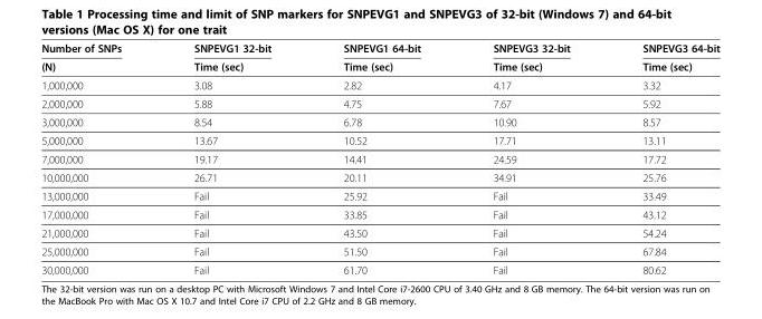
<table><thead><tr><td rowspan="2">Number of SNPs (N)</td><td rowspan="2">SNPEVG1 32-bit Time (sec)</td><td rowspan="2">SNPEVG1 64-bit Time (sec)</td><td rowspan="2">SNPEVG3 32-bit Time (sec)</td><td rowspan="2">SNPEVG3 64-bit Time (sec)</td></tr><tr></tr></thead><tbody><tr><td>1,000,000</td><td>3.08</td><td>2.82</td><td>4.17</td><td>3.32</td></tr><tr><td>2,000,000</td><td>5.88</td><td>4.75</td><td>7.67</td><td>5.92</td></tr><tr><td>3,000,000</td><td>8.54</td><td>6.78</td><td>10.90</td><td>8.57</td></tr><tr><td>5,000,000</td><td>13.67</td><td>10.52</td><td>17.71</td><td>13.11</td></tr><tr><td>7,000,000</td><td>19.17</td><td>14.41</td><td>24.59</td><td>17.72</td></tr><tr><td>10,000,000</td><td>26.71</td><td>20.11</td><td>34.91</td><td>25.76</td></tr><tr><td>13,000,000</td><td>Fail</td><td>25.92</td><td>Fail</td><td>33.49</td></tr><tr><td>17,000,000</td><td>Fail</td><td>33.85</td><td>Fail</td><td>43.12</td></tr><tr><td>21,000,000</td><td>Fail</td><td>43.50</td><td>Fail</td><td>54.24</td></tr><tr><td>25,000,000</td><td>Fail</td><td>51.50</td><td>Fail</td><td>67.84</td></tr><tr><td>30,000,000</td><td>Fail</td><td>61.70</td><td>Fail</td><td>80.62</td></tr></tbody></table>